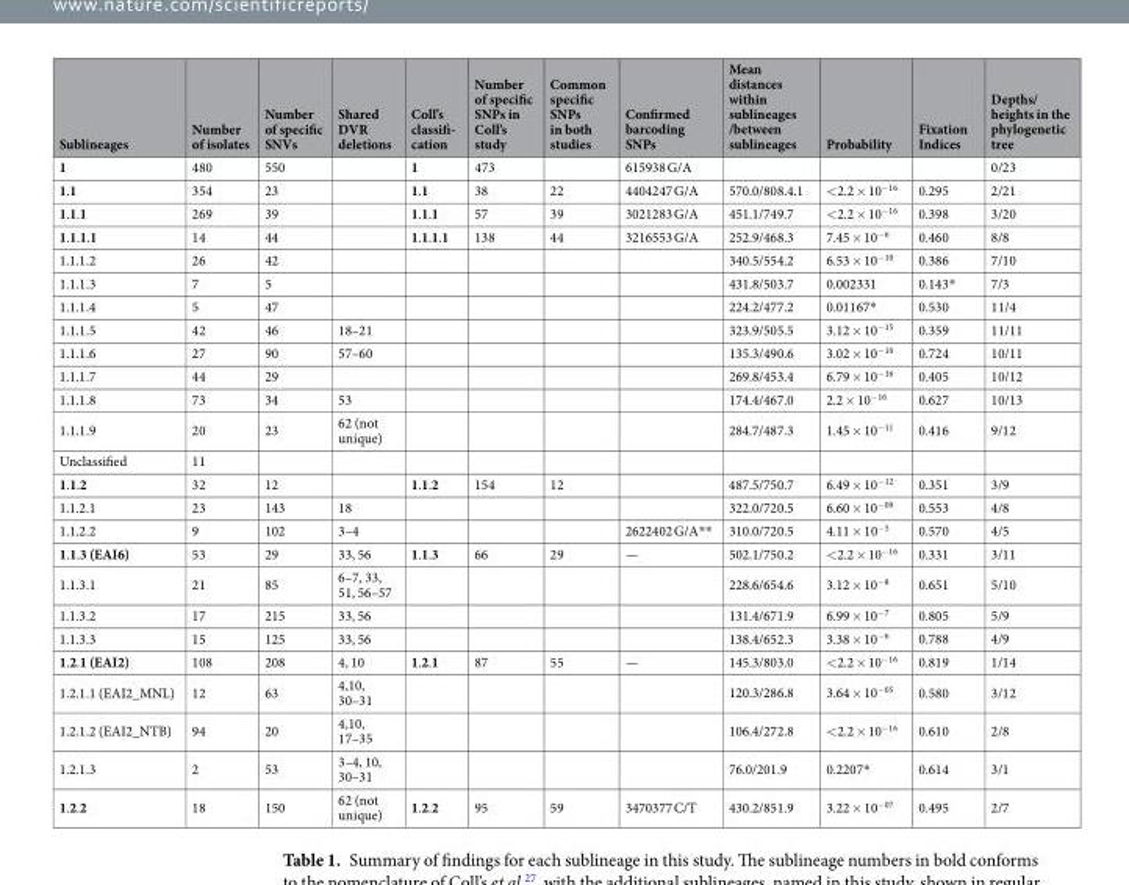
<table><thead><tr><td>Sublineages</td><td>Number of isolates</td><td>Number of specific SNVs</td><td>Shared DVR deletions</td><td>Coll’s classifi- cation</td><td>Number of specific SNPs in Coll’s study</td><td>Common specific SNPs in both studies</td><td>Confirmed barcoding SNPs</td><td>Mean distances within sublineages /between sublineages</td><td>Probability</td><td>Fixation Indices</td><td>Depths/ heights in the phylogenetic tree</td></tr></thead><tbody><tr><td>1</td><td>480</td><td>550</td><td></td><td>1</td><td>473</td><td></td><td>615938 G/A</td><td></td><td></td><td></td><td>0/23</td></tr><tr><td>1.1</td><td>354</td><td>23</td><td></td><td>1.1</td><td>38</td><td>22</td><td>4404247 G/A</td><td>570.0/808.4.1</td><td>&lt;2.2 × 10<sup>−16</sup></td><td>0.295</td><td>2/21</td></tr><tr><td>1.1.1</td><td>269</td><td>39</td><td></td><td>1.1.1</td><td>57</td><td>39</td><td>3021283 G/A</td><td>451.1/749.7</td><td>&lt;2.2 × 10<sup>−16</sup></td><td>0.398</td><td>3/20</td></tr><tr><td>1.1.1.1</td><td>14</td><td>44</td><td></td><td>1.1.1.1</td><td>138</td><td>44</td><td>3216553 G/A</td><td>252.9/468.3</td><td>7.45 × 10<sup>−6</sup></td><td>0.460</td><td>8/8</td></tr><tr><td>1.1.1.2</td><td>26</td><td>42</td><td></td><td></td><td></td><td></td><td></td><td>340.5/554.2</td><td>6.53 × 10<sup>−10</sup></td><td>0.386</td><td>7/10</td></tr><tr><td>1.1.1.3</td><td>7</td><td>5</td><td></td><td></td><td></td><td></td><td></td><td>431.8/503.7</td><td>0.002331</td><td>0.143*</td><td>7/3</td></tr><tr><td>1.1.1.4</td><td>5</td><td>47</td><td></td><td></td><td></td><td></td><td></td><td>224.2/477.2</td><td>0.01167*</td><td>0.530</td><td>11/4</td></tr><tr><td>1.1.1.5</td><td>42</td><td>46</td><td>18–21</td><td></td><td></td><td></td><td></td><td>323.9/505.5</td><td>3.12 × 10<sup>−15</sup></td><td>0.359</td><td>11/11</td></tr><tr><td>1.1.1.6</td><td>27</td><td>90</td><td>57–60</td><td></td><td></td><td></td><td></td><td>135.3/490.6</td><td>3.02 × 10<sup>−10</sup></td><td>0.724</td><td>10/11</td></tr><tr><td>1.1.1.7</td><td>44</td><td>29</td><td></td><td></td><td></td><td></td><td></td><td>269.8/453.4</td><td>6.79 × 10<sup>−16</sup></td><td>0.405</td><td>10/12</td></tr><tr><td>1.1.1.8</td><td>73</td><td>34</td><td>53</td><td></td><td></td><td></td><td></td><td>174.4/467.0</td><td>2.2 × 10<sup>−16</sup></td><td>0.627</td><td>10/13</td></tr><tr><td>1.1.1.9</td><td>20</td><td>23</td><td>62 (not unique)</td><td></td><td></td><td></td><td></td><td>284.7/487.3</td><td>1.45 × 10<sup>−11</sup></td><td>0.416</td><td>9/12</td></tr><tr><td>Unclassified</td><td>11</td><td></td><td></td><td></td><td></td><td></td><td></td><td></td><td></td><td></td><td></td></tr><tr><td>1.1.2</td><td>32</td><td>12</td><td></td><td>1.1.2</td><td>154</td><td>12</td><td></td><td>487.5/750.7</td><td>6.49 × 10<sup>−12</sup></td><td>0.351</td><td>3/9</td></tr><tr><td>1.1.2.1</td><td>23</td><td>143</td><td>18</td><td></td><td></td><td></td><td></td><td>322.0/720.5</td><td>6.60 × 10<sup>−09</sup></td><td>0.553</td><td>4/8</td></tr><tr><td>1.1.2.2</td><td>9</td><td>102</td><td>3–4</td><td></td><td></td><td></td><td>2622402 G/A**</td><td>310.0/720.5</td><td>4.11 × 10<sup>−5</sup></td><td>0.570</td><td>4/5</td></tr><tr><td>1.1.3 (EAI6)</td><td>53</td><td>29</td><td>33, 56</td><td>1.1.3</td><td>66</td><td>29</td><td>—</td><td>502.1/750.2</td><td>&lt;2.2 × 10<sup>−16</sup></td><td>0.331</td><td>3/11</td></tr><tr><td>1.1.3.1</td><td>21</td><td>85</td><td>6–7, 33, 51, 56–57</td><td></td><td></td><td></td><td></td><td>228.6/654.6</td><td>3.12 × 10<sup>−8</sup></td><td>0.651</td><td>5/10</td></tr><tr><td>1.1.3.2</td><td>17</td><td>215</td><td>33, 56</td><td></td><td></td><td></td><td></td><td>131.4/671.9</td><td>6.99 × 10<sup>−7</sup></td><td>0.805</td><td>5/9</td></tr><tr><td>1.1.3.3</td><td>15</td><td>125</td><td>33, 56</td><td></td><td></td><td></td><td></td><td>138.4/652.3</td><td>3.38 × 10<sup>−6</sup></td><td>0.788</td><td>4/9</td></tr><tr><td>1.2.1 (EAI2)</td><td>108</td><td>208</td><td>4, 10</td><td>1.2.1</td><td>87</td><td>55</td><td>—</td><td>145.3/803.0</td><td>&lt;2.2 × 10<sup>−16</sup></td><td>0.819</td><td>1/14</td></tr><tr><td>1.2.1.1 (EAI2_MNL)</td><td>12</td><td>63</td><td>4,10, 30–31</td><td></td><td></td><td></td><td></td><td>120.3/286.8</td><td>3.64 × 10<sup>−05</sup></td><td>0.580</td><td>3/12</td></tr><tr><td>1.2.1.2 (EAI2_NTB)</td><td>94</td><td>20</td><td>4,10, 17–35</td><td></td><td></td><td></td><td></td><td>106.4/272.8</td><td>&lt;2.2 × 10<sup>−16</sup></td><td>0.610</td><td>2/8</td></tr><tr><td>1.2.1.3</td><td>2</td><td>53</td><td>3–4, 10, 30–31</td><td></td><td></td><td></td><td></td><td>76.0/201.9</td><td>0.2207*</td><td>0.614</td><td>3/1</td></tr><tr><td>1.2.2</td><td>18</td><td>150</td><td>62 (not unique)</td><td>1.2.2</td><td>95</td><td>59</td><td>3470377 C/T</td><td>430.2/851.9</td><td>3.22 × 10<sup>−07</sup></td><td>0.495</td><td>2/7</td></tr></tbody></table>